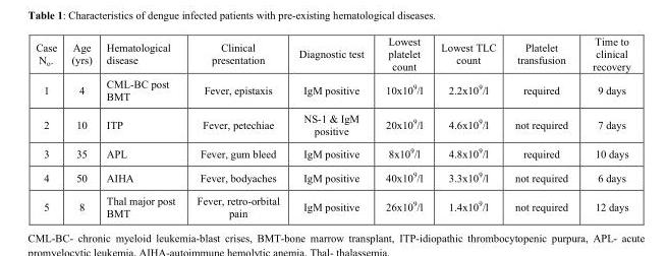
<table><thead><tr><td>Case N<sub>o</sub>.</td><td>Age (yrs)</td><td>Hematological disease</td><td>Clinical presentation</td><td>Diagnostic test</td><td>Lowest platelet count</td><td>Lowest TLC count</td><td>Platelet transfusion</td><td>Time to clinical recovery</td></tr></thead><tbody><tr><td>1</td><td>4</td><td>CML-BC post BMT</td><td>Fever, epistaxis</td><td>IgM positive</td><td>10x10<sup>9</sup>/l</td><td>2.2x10<sup>9</sup>/l</td><td>required</td><td>9 days</td></tr><tr><td>2</td><td>10</td><td>ITP</td><td>Fever, petechiae</td><td>NS-1 &amp; IgM positive</td><td>20x10<sup>9</sup>/l</td><td>4.6x10<sup>9</sup>/l</td><td>not required</td><td>7 days</td></tr><tr><td>3</td><td>35</td><td>APL</td><td>Fever, gum bleed</td><td>IgM positive</td><td>8x10<sup>9</sup>/l</td><td>4.8x10<sup>9</sup>/l</td><td>required</td><td>10 days</td></tr><tr><td>4</td><td>50</td><td>AIHA</td><td>Fever, bodyaches</td><td>IgM positive</td><td>40x10<sup>9</sup>/l</td><td>3.3x10<sup>9</sup>/l</td><td>not required</td><td>6 days</td></tr><tr><td>5</td><td>8</td><td>Thal major post BMT</td><td>Fever, retro-orbital pain</td><td>IgM positive</td><td>26x10<sup>9</sup>/l</td><td>1.4x10<sup>9</sup>/l</td><td>not required</td><td>12 days</td></tr></tbody></table>